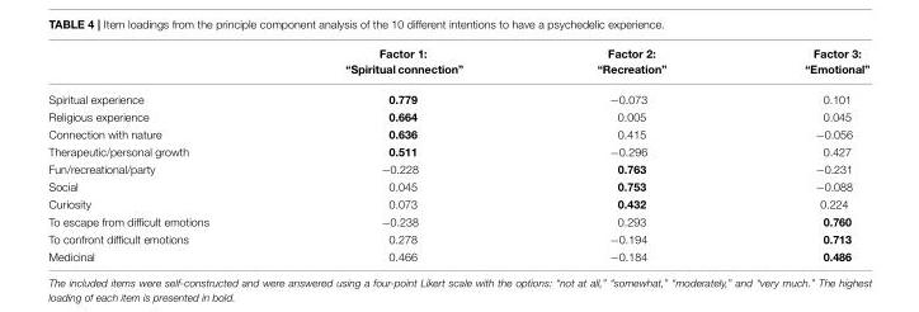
<table><thead><tr><td></td><td>Factor 1: “Spiritual connection”</td><td>Factor 2: “Recreation”</td><td>Factor 3: “Emotional”</td></tr></thead><tbody><tr><td>Spiritual experience</td><td>0.779</td><td>−0.073</td><td>0.101</td></tr><tr><td>Religious experience</td><td>0.664</td><td>0.005</td><td>0.045</td></tr><tr><td>Connection with nature</td><td>0.636</td><td>0.415</td><td>−0.056</td></tr><tr><td>Therapeutic/personal growth</td><td>0.511</td><td>−0.296</td><td>0.427</td></tr><tr><td>Fun/recreational/party</td><td>−0.228</td><td>0.763</td><td>−0.231</td></tr><tr><td>Social</td><td>0.045</td><td>0.753</td><td>−0.088</td></tr><tr><td>Curiosity</td><td>0.073</td><td>0.432</td><td>0.224</td></tr><tr><td>To escape from difficult emotions</td><td>−0.238</td><td>0.293</td><td>0.760</td></tr><tr><td>To confront difficult emotions</td><td>0.278</td><td>−0.194</td><td>0.713</td></tr><tr><td>Medicinal</td><td>0.466</td><td>−0.184</td><td>0.486</td></tr></tbody></table>